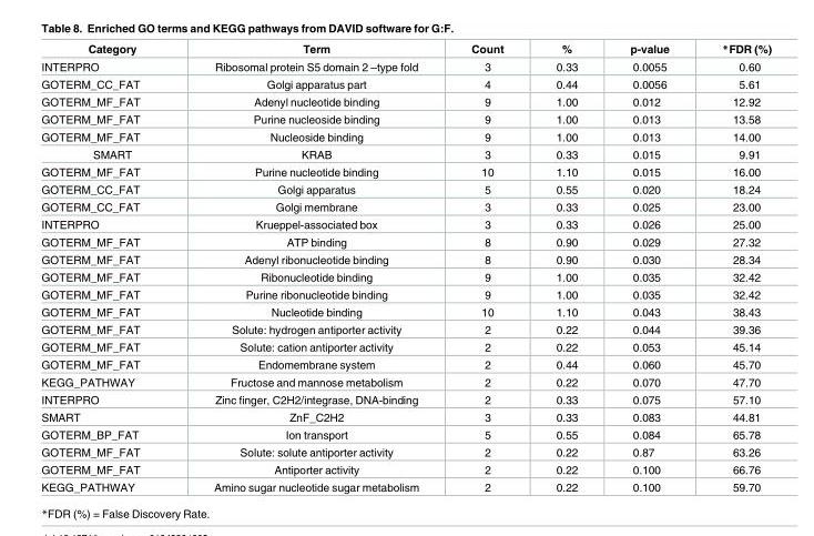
<table><thead><tr><td>Category</td><td>Term</td><td>Count</td><td>%</td><td>p-value</td><td>*FDR (%)</td></tr></thead><tbody><tr><td>INTERPRO</td><td>Ribosomal protein S5 domain 2 –type fold</td><td>3</td><td>0.33</td><td>0.0055</td><td>0.60</td></tr><tr><td>GOTERM_CC_FAT</td><td>Golgi apparatus part</td><td>4</td><td>0.44</td><td>0.0056</td><td>5.61</td></tr><tr><td>GOTERM_MF_FAT</td><td>Adenyl nucleotide binding</td><td>9</td><td>1.00</td><td>0.012</td><td>12.92</td></tr><tr><td>GOTERM_MF_FAT</td><td>Purine nucleoside binding</td><td>9</td><td>1.00</td><td>0.013</td><td>13.58</td></tr><tr><td>GOTERM_MF_FAT</td><td>Nucleoside binding</td><td>9</td><td>1.00</td><td>0.013</td><td>14.00</td></tr><tr><td>SMART</td><td>KRAB</td><td>3</td><td>0.33</td><td>0.015</td><td>9.91</td></tr><tr><td>GOTERM_MF_FAT</td><td>Purine nucleotide binding</td><td>10</td><td>1.10</td><td>0.015</td><td>16.00</td></tr><tr><td>GOTERM_CC_FAT</td><td>Golgi apparatus</td><td>5</td><td>0.55</td><td>0.020</td><td>18.24</td></tr><tr><td>GOTERM_CC_FAT</td><td>Golgi membrane</td><td>3</td><td>0.33</td><td>0.025</td><td>23.00</td></tr><tr><td>INTERPRO</td><td>Krueppel-associated box</td><td>3</td><td>0.33</td><td>0.026</td><td>25.00</td></tr><tr><td>GOTERM_MF_FAT</td><td>ATP binding</td><td>8</td><td>0.90</td><td>0.029</td><td>27.32</td></tr><tr><td>GOTERM_MF_FAT</td><td>Adenyl ribonucleotide binding</td><td>8</td><td>0.90</td><td>0.030</td><td>28.34</td></tr><tr><td>GOTERM_MF_FAT</td><td>Ribonucleotide binding</td><td>9</td><td>1.00</td><td>0.035</td><td>32.42</td></tr><tr><td>GOTERM_MF_FAT</td><td>Purine ribonucleotide binding</td><td>9</td><td>1.00</td><td>0.035</td><td>32.42</td></tr><tr><td>GOTERM_MF_FAT</td><td>Nucleotide binding</td><td>10</td><td>1.10</td><td>0.043</td><td>38.43</td></tr><tr><td>GOTERM_MF_FAT</td><td>Solute: hydrogen antiporter activity</td><td>2</td><td>0.22</td><td>0.044</td><td>39.36</td></tr><tr><td>GOTERM_MF_FAT</td><td>Solute: cation antiporter activity</td><td>2</td><td>0.22</td><td>0.053</td><td>45.14</td></tr><tr><td>GOTERM_MF_FAT</td><td>Endomembrane system</td><td>2</td><td>0.44</td><td>0.060</td><td>45.70</td></tr><tr><td>KEGG_PATHWAY</td><td>Fructose and mannose metabolism</td><td>2</td><td>0.22</td><td>0.070</td><td>47.70</td></tr><tr><td>INTERPRO</td><td>Zinc finger, C2H2/integrase, DNA-binding</td><td>2</td><td>0.33</td><td>0.075</td><td>57.10</td></tr><tr><td>SMART</td><td>ZnF_C2H2</td><td>3</td><td>0.33</td><td>0.083</td><td>44.81</td></tr><tr><td>GOTERM_BP_FAT</td><td>Ion transport</td><td>5</td><td>0.55</td><td>0.084</td><td>65.78</td></tr><tr><td>GOTERM_MF_FAT</td><td>Solute: solute antiporter activity</td><td>2</td><td>0.22</td><td>0.87</td><td>63.26</td></tr><tr><td>GOTERM_MF_FAT</td><td>Antiporter activity</td><td>2</td><td>0.22</td><td>0.100</td><td>66.76</td></tr><tr><td>KEGG_PATHWAY</td><td>Amino sugar nucleotide sugar metabolism</td><td>2</td><td>0.22</td><td>0.100</td><td>59.70</td></tr></tbody></table>